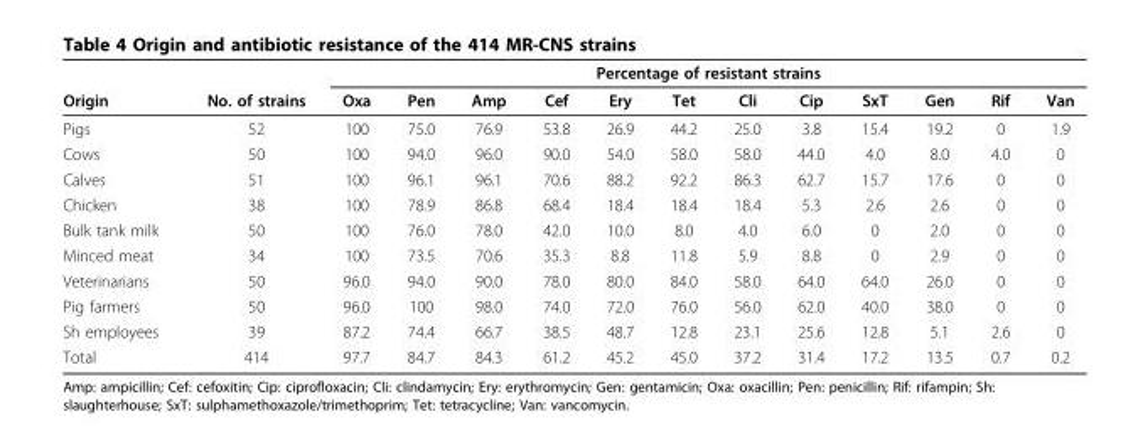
<table><thead><tr><td rowspan="2">Origin</td><td rowspan="2">No. of strains</td><td colspan="12">Percentage of resistant strains</td></tr><tr><td>Oxa</td><td>Pen</td><td>Amp</td><td>Cef</td><td>Ery</td><td>Tet</td><td>Cli</td><td>Cip</td><td>SxT</td><td>Gen</td><td>Rif</td><td>Van</td></tr></thead><tbody><tr><td>Pigs</td><td>52</td><td>100</td><td>75.0</td><td>76.9</td><td>53.8</td><td>26.9</td><td>44.2</td><td>25.0</td><td>3.8</td><td>15.4</td><td>19.2</td><td>0</td><td>1.9</td></tr><tr><td>Cows</td><td>50</td><td>100</td><td>94.0</td><td>96.0</td><td>90.0</td><td>54.0</td><td>58.0</td><td>58.0</td><td>44.0</td><td>4.0</td><td>8.0</td><td>4.0</td><td>0</td></tr><tr><td>Calves</td><td>51</td><td>100</td><td>96.1</td><td>96.1</td><td>70.6</td><td>88.2</td><td>92.2</td><td>86.3</td><td>62.7</td><td>15.7</td><td>17.6</td><td>0</td><td>0</td></tr><tr><td>Chicken</td><td>38</td><td>100</td><td>78.9</td><td>86.8</td><td>68.4</td><td>18.4</td><td>18.4</td><td>18.4</td><td>5.3</td><td>2.6</td><td>2.6</td><td>0</td><td>0</td></tr><tr><td>Bulk tank milk</td><td>50</td><td>100</td><td>76.0</td><td>78.0</td><td>42.0</td><td>10.0</td><td>8.0</td><td>4.0</td><td>6.0</td><td>0</td><td>2.0</td><td>0</td><td>0</td></tr><tr><td>Minced meat</td><td>34</td><td>100</td><td>73.5</td><td>70.6</td><td>35.3</td><td>8.8</td><td>11.8</td><td>5.9</td><td>8.8</td><td>0</td><td>2.9</td><td>0</td><td>0</td></tr><tr><td>Veterinarians</td><td>50</td><td>96.0</td><td>94.0</td><td>90.0</td><td>78.0</td><td>80.0</td><td>84.0</td><td>58.0</td><td>64.0</td><td>64.0</td><td>26.0</td><td>0</td><td>0</td></tr><tr><td>Pig farmers</td><td>50</td><td>96.0</td><td>100</td><td>98.0</td><td>74.0</td><td>72.0</td><td>76.0</td><td>56.0</td><td>62.0</td><td>40.0</td><td>38.0</td><td>0</td><td>0</td></tr><tr><td>Sh employees</td><td>39</td><td>87.2</td><td>74.4</td><td>66.7</td><td>38.5</td><td>48.7</td><td>12.8</td><td>23.1</td><td>25.6</td><td>12.8</td><td>5.1</td><td>2.6</td><td>0</td></tr><tr><td>Total</td><td>414</td><td>97.7</td><td>84.7</td><td>84.3</td><td>61.2</td><td>45.2</td><td>45.0</td><td>37.2</td><td>31.4</td><td>17.2</td><td>13.5</td><td>0.7</td><td>0.2</td></tr></tbody></table>